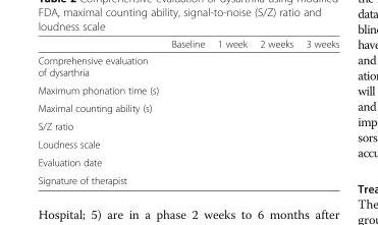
<table><thead><tr><td></td><td>Baseline</td><td>1 week</td><td>2 weeks</td><td>3 weeks</td></tr></thead><tbody><tr><td colspan="5">Comprehensive evaluation of dysarthria</td></tr><tr><td colspan="5">Maximum phonation time (s)</td></tr><tr><td colspan="5">Maximal counting ability (s)</td></tr><tr><td colspan="5">S/Z ratio</td></tr><tr><td colspan="5">Loudness scale</td></tr><tr><td colspan="5">Evaluation date</td></tr><tr><td>Signature of therapist</td><td></td><td></td><td></td><td></td></tr></tbody></table>